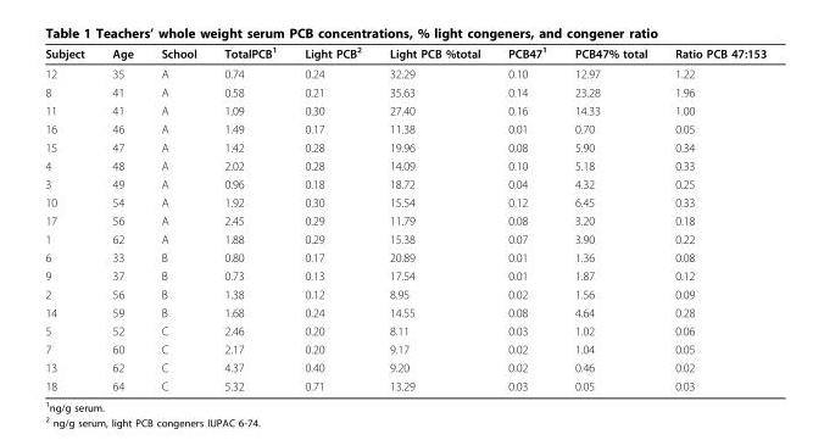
<table><thead><tr><td>Subject</td><td>Age</td><td>School</td><td>TotalPCB<sup>1</sup></td><td>Light PCB<sup>2</sup></td><td>Light PCB %total</td><td>PCB47<sup>1</sup></td><td>PCB47% total</td><td>Ratio PCB 47:153</td></tr></thead><tbody><tr><td>12</td><td>35</td><td>A</td><td>0.74</td><td>0.24</td><td>32.29</td><td>0.10</td><td>12.97</td><td>1.22</td></tr><tr><td>8</td><td>41</td><td>A</td><td>0.58</td><td>0.21</td><td>35.63</td><td>0.14</td><td>23.28</td><td>1.96</td></tr><tr><td>11</td><td>41</td><td>A</td><td>1.09</td><td>0.30</td><td>27.40</td><td>0.16</td><td>14.33</td><td>1.00</td></tr><tr><td>16</td><td>46</td><td>A</td><td>1.49</td><td>0.17</td><td>11.38</td><td>0.01</td><td>0.70</td><td>0.05</td></tr><tr><td>15</td><td>47</td><td>A</td><td>1.42</td><td>0.28</td><td>19.96</td><td>0.08</td><td>5.90</td><td>0.34</td></tr><tr><td>4</td><td>48</td><td>A</td><td>2.02</td><td>0.28</td><td>14.09</td><td>0.10</td><td>5.18</td><td>0.33</td></tr><tr><td>3</td><td>49</td><td>A</td><td>0.96</td><td>0.18</td><td>18.72</td><td>0.04</td><td>4.32</td><td>0.25</td></tr><tr><td>10</td><td>54</td><td>A</td><td>1.92</td><td>0.30</td><td>15.54</td><td>0.12</td><td>6.45</td><td>0.33</td></tr><tr><td>17</td><td>56</td><td>A</td><td>2.45</td><td>0.29</td><td>11.79</td><td>0.08</td><td>3.20</td><td>0.18</td></tr><tr><td>1</td><td>62</td><td>A</td><td>1.88</td><td>0.29</td><td>15.38</td><td>0.07</td><td>3.90</td><td>0.22</td></tr><tr><td>6</td><td>33</td><td>B</td><td>0.80</td><td>0.17</td><td>20.89</td><td>0.01</td><td>1.36</td><td>0.08</td></tr><tr><td>9</td><td>37</td><td>B</td><td>0.73</td><td>0.13</td><td>17.54</td><td>0.01</td><td>1.87</td><td>0.12</td></tr><tr><td>2</td><td>56</td><td>B</td><td>1.38</td><td>0.12</td><td>8.95</td><td>0.02</td><td>1.56</td><td>0.09</td></tr><tr><td>14</td><td>59</td><td>B</td><td>1.68</td><td>0.24</td><td>14.55</td><td>0.08</td><td>4.64</td><td>0.28</td></tr><tr><td>5</td><td>52</td><td>C</td><td>2.46</td><td>0.20</td><td>8.11</td><td>0.03</td><td>1.02</td><td>0.06</td></tr><tr><td>7</td><td>60</td><td>C</td><td>2.17</td><td>0.20</td><td>9.17</td><td>0.02</td><td>1.04</td><td>0.05</td></tr><tr><td>13</td><td>62</td><td>C</td><td>4.37</td><td>0.40</td><td>9.20</td><td>0.02</td><td>0.46</td><td>0.02</td></tr><tr><td>18</td><td>64</td><td>C</td><td>5.32</td><td>0.71</td><td>13.29</td><td>0.03</td><td>0.05</td><td>0.03</td></tr></tbody></table>